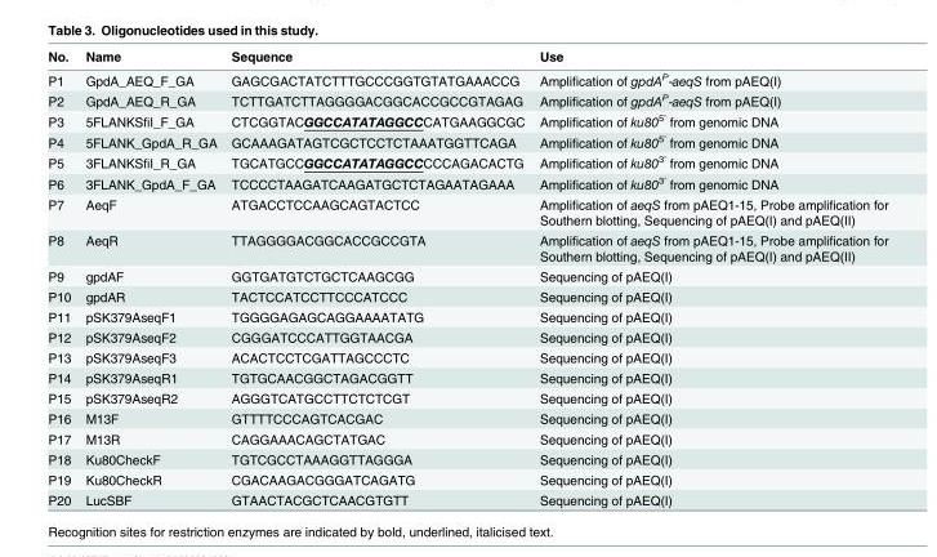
<table><thead><tr><td>No.</td><td>Name</td><td>Sequence</td><td>Use</td></tr></thead><tbody><tr><td>P1</td><td>GpdA_AEQ_F_GA</td><td>GAGCGACTATCTTTGCCCGGTGTATGAAACCG</td><td>Amplification of gpdA<sup>P</sup>-aeqS from pAEQ(I)</td></tr><tr><td>P2</td><td>GpdA_AEQ_R_GA</td><td>TCTTGATCTTAGGGGACGGCACCGCCGTAGAG</td><td>Amplification of gpdA<sup>P</sup>-aeqS from pAEQ(I)</td></tr><tr><td>P3</td><td>5FLANKSfiI_F_GA</td><td>CTCGGTACGGCCATATAGGCCCATGAAGGCGC</td><td>Amplification of ku80<sup>5’</sup> from genomic DNA</td></tr><tr><td>P4</td><td>5FLANK_GpdA_R_GA</td><td>GCAAAGATAGTCGCTCCTCTAAATGGTTCAGA</td><td>Amplification of ku80<sup>5’</sup> from genomic DNA</td></tr><tr><td>P5</td><td>3FLANKSfiI_R_GA</td><td>TGCATGCCGGCCATATAGGCCCCCAGACACTG</td><td>Amplification of ku80<sup>3’</sup> from genomic DNA</td></tr><tr><td>P6</td><td>3FLANK_GpdA_F_GA</td><td>TCCCCTAAGATCAAGATGCTCTAGAATAGAAA</td><td>Amplification of ku80<sup>3’</sup> from genomic DNA</td></tr><tr><td>P7</td><td>AeqF</td><td>ATGACCTCCAAGCAGTACTCC</td><td>Amplification of aeqS from pAEQ1-15, Probe amplification for Southern blotting, Sequencing of pAEQ(I) and pAEQ(II)</td></tr><tr><td>P8</td><td>AeqR</td><td>TTAGGGGACGGCACCGCCGTA</td><td>Amplification of aeqS from pAEQ1-15, Probe amplification for Southern blotting, Sequencing of pAEQ(I) and pAEQ(II)</td></tr><tr><td>P9</td><td>gpdAF</td><td>GGTGATGTCTGCTCAAGCGG</td><td>Sequencing of pAEQ(I)</td></tr><tr><td>P10</td><td>gpdAR</td><td>TACTCCATCCTTCCCATCCC</td><td>Sequencing of pAEQ(I)</td></tr><tr><td>P11</td><td>pSK379AseqF1</td><td>TGGGGAGAGCAGGAAAATATG</td><td>Sequencing of pAEQ(I)</td></tr><tr><td>P12</td><td>pSK379AseqF2</td><td>CGGGATCCCATTGGTAACGA</td><td>Sequencing of pAEQ(I)</td></tr><tr><td>P13</td><td>pSK379AseqF3</td><td>ACACTCCTCGATTAGCCCTC</td><td>Sequencing of pAEQ(I)</td></tr><tr><td>P14</td><td>pSK379AseqR1</td><td>TGTGCAACGGCTAGACGGTT</td><td>Sequencing of pAEQ(I)</td></tr><tr><td>P15</td><td>pSK379AseqR2</td><td>AGGGTCATGCCTTCTCTCGT</td><td>Sequencing of pAEQ(I)</td></tr><tr><td>P16</td><td>M13F</td><td>GTTTTCCCAGTCACGAC</td><td>Sequencing of pAEQ(I)</td></tr><tr><td>P17</td><td>M13R</td><td>CAGGAAACAGCTATGAC</td><td>Sequencing of pAEQ(I)</td></tr><tr><td>P18</td><td>Ku80CheckF</td><td>TGTCGCCTAAAGGTTAGGGA</td><td>Sequencing of pAEQ(I)</td></tr><tr><td>P19</td><td>Ku80CheckR</td><td>CGACAAGACGGGATCAGATG</td><td>Sequencing of pAEQ(I)</td></tr><tr><td>P20</td><td>LucSBF</td><td>GTAACTACGCTCAACGTGTT</td><td>Sequencing of pAEQ(I)</td></tr></tbody></table>